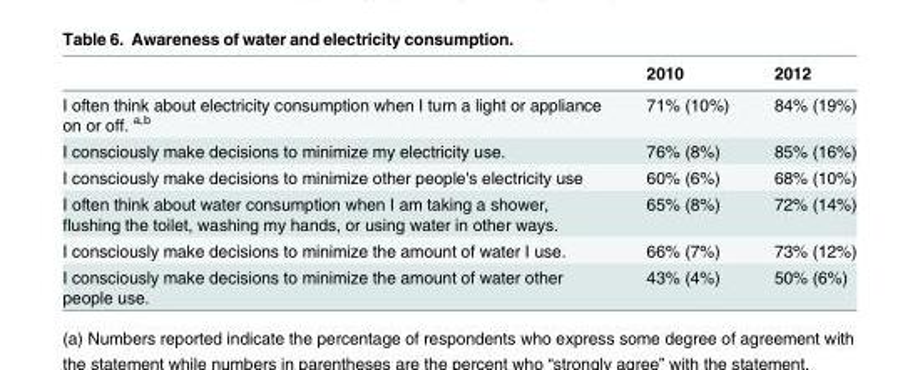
<table><thead><tr><td></td><td>2010</td><td>2012</td></tr></thead><tbody><tr><td>I often think about electricity consumption when I turn a light or appliance on or off. <sup>a,b</sup></td><td>71% (10%)</td><td>84% (19%)</td></tr><tr><td>I consciously make decisions to minimize my electricity use.</td><td>76% (8%)</td><td>85% (16%)</td></tr><tr><td>I consciously make decisions to minimize other people&#x27;s electricity use</td><td>60% (6%)</td><td>68% (10%)</td></tr><tr><td>I often think about water consumption when I am taking a shower, flushing the toilet, washing my hands, or using water in other ways.</td><td>65% (8%)</td><td>72% (14%)</td></tr><tr><td>I consciously make decisions to minimize the amount of water I use.</td><td>66% (7%)</td><td>73% (12%)</td></tr><tr><td>I consciously make decisions to minimize the amount of water other people use.</td><td>43% (4%)</td><td>50% (6%)</td></tr></tbody></table>